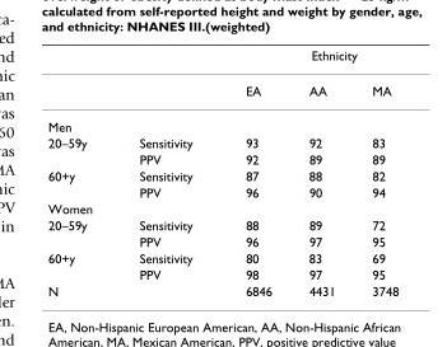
<table><thead><tr><td rowspan="2"></td><td rowspan="2"></td><td colspan="3">Ethnicity</td></tr><tr><td>EA</td><td>AA</td><td>MA</td></tr></thead><tbody><tr><td colspan="5">Men</td></tr><tr><td rowspan="2">20–59y</td><td>Sensitivity</td><td>93</td><td>92</td><td>83</td></tr><tr><td>PPV</td><td>92</td><td>89</td><td>89</td></tr><tr><td rowspan="2">60+y</td><td>Sensitivity</td><td>87</td><td>88</td><td>82</td></tr><tr><td>PPV</td><td>96</td><td>90</td><td>94</td></tr><tr><td colspan="5">Women</td></tr><tr><td rowspan="2">20–59y</td><td>Sensitivity</td><td>88</td><td>89</td><td>72</td></tr><tr><td>PPV</td><td>96</td><td>97</td><td>95</td></tr><tr><td rowspan="2">60+y</td><td>Sensitivity</td><td>80</td><td>83</td><td>69</td></tr><tr><td>PPV</td><td>98</td><td>97</td><td>95</td></tr><tr><td>N</td><td></td><td>6846</td><td>4431</td><td>3748</td></tr></tbody></table>